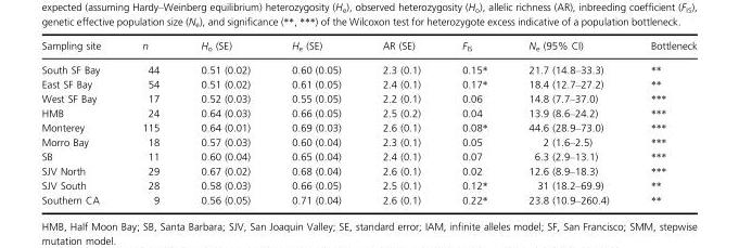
<table><thead><tr><td>Sampling site</td><td>n</td><td>H<sub>o</sub> (SE)</td><td>H<sub>e</sub> (SE)</td><td>AR (SE)</td><td>F<sub>IS</sub></td><td>N<sub>e</sub> (95% CI)</td><td>Bottleneck</td></tr></thead><tbody><tr><td>South SF Bay</td><td>44</td><td>0.51 (0.02)</td><td>0.60 (0.05)</td><td>2.3 (0.1)</td><td>0.15*</td><td>21.7 (14.8–33.3)</td><td>**</td></tr><tr><td>East SF Bay</td><td>54</td><td>0.51 (0.02)</td><td>0.61 (0.05)</td><td>2.4 (0.1)</td><td>0.17*</td><td>18.4 (12.7–27.2)</td><td>**</td></tr><tr><td>West SF Bay</td><td>17</td><td>0.52 (0.03)</td><td>0.55 (0.05)</td><td>2.2 (0.1)</td><td>0.06</td><td>14.8 (7.7–37.0)</td><td>***</td></tr><tr><td>HMB</td><td>24</td><td>0.64 (0.03)</td><td>0.66 (0.05)</td><td>2.5 (0.2)</td><td>0.04</td><td>13.9 (8.6–24.2)</td><td>***</td></tr><tr><td>Monterey</td><td>115</td><td>0.64 (0.01)</td><td>0.69 (0.03)</td><td>2.6 (0.1)</td><td>0.08*</td><td>44.6 (28.9–73.0)</td><td>***</td></tr><tr><td>Morro Bay</td><td>18</td><td>0.57 (0.03)</td><td>0.60 (0.04)</td><td>2.3 (0.1)</td><td>0.05</td><td>2 (1.6–2.5)</td><td>***</td></tr><tr><td>SB</td><td>11</td><td>0.60 (0.04)</td><td>0.65 (0.04)</td><td>2.4 (0.1)</td><td>0.07</td><td>6.3 (2.9–13.1)</td><td>***</td></tr><tr><td>SJV North</td><td>29</td><td>0.67 (0.02)</td><td>0.68 (0.04)</td><td>2.6 (0.1)</td><td>0.02</td><td>12.6 (8.9–18.3)</td><td>***</td></tr><tr><td>SJV South</td><td>28</td><td>0.58 (0.03)</td><td>0.66 (0.05)</td><td>2.5 (0.1)</td><td>0.12*</td><td>31 (18.2–69.9)</td><td>**</td></tr><tr><td>Southern CA</td><td>9</td><td>0.56 (0.05)</td><td>0.71 (0.04)</td><td>2.6 (0.1)</td><td>0.22*</td><td>23.8 (10.9–260.4)</td><td>**</td></tr></tbody></table>